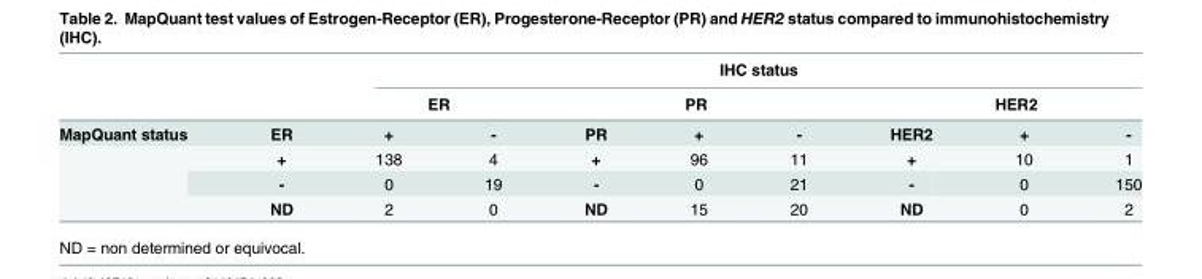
<table><thead><tr><td rowspan="3">MapQuant status</td><td rowspan="3">ER</td><td colspan="8">IHC status</td></tr><tr><td colspan="2">ER</td><td colspan="3">PR</td><td colspan="3">HER2</td></tr><tr><td>+</td><td>-</td><td>PR</td><td>+</td><td>-</td><td>HER2</td><td>+</td><td>-</td></tr></thead><tbody><tr><td rowspan="3"></td><td>+</td><td>138</td><td>4</td><td>+</td><td>96</td><td>11</td><td>+</td><td>10</td><td>1</td></tr><tr><td>-</td><td>0</td><td>19</td><td>-</td><td>0</td><td>21</td><td>-</td><td>0</td><td>150</td></tr><tr><td>ND</td><td>2</td><td>0</td><td>ND</td><td>15</td><td>20</td><td>ND</td><td>0</td><td>2</td></tr></tbody></table>